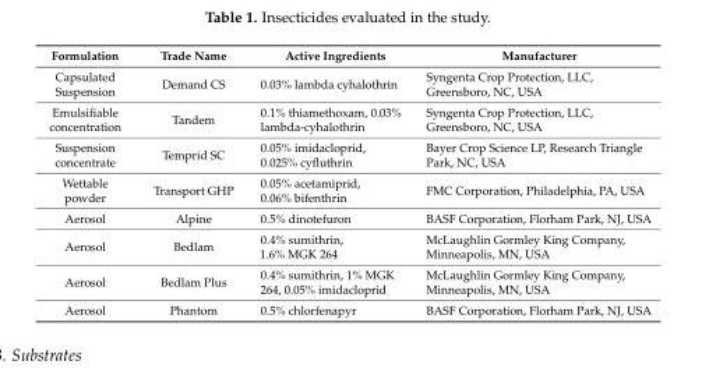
<table><thead><tr><td>Formulation</td><td>Trade Name</td><td>Active Ingredients</td><td>Manufacturer</td></tr></thead><tbody><tr><td>Capsulated Suspension</td><td>Demand CS</td><td>0.03% lambda cyhalothrin</td><td>Syngenta Crop Protection, LLC, Greensboro, NC, USA</td></tr><tr><td>Emulsifiable concentration</td><td>Tandem</td><td>0.1% thiamethoxam, 0.03% lambda-cyhalothrin</td><td>Syngenta Crop Protection, LLC, Greensboro, NC, USA</td></tr><tr><td>Suspension concentrate</td><td>Temprid SC</td><td>0.05% imidacloprid, 0.025% cyfluthrin</td><td>Bayer Crop Science LP, Research Triangle Park, NC, USA</td></tr><tr><td>Wettable powder</td><td>Transport GHP</td><td>0.05% acetamiprid, 0.06% bifenthrin</td><td>FMC Corporation, Philadelphia, PA, USA</td></tr><tr><td>Aerosol</td><td>Alpine</td><td>0.5% dinotefuron</td><td>BASF Corporation, Florham Park, NJ, USA</td></tr><tr><td>Aerosol</td><td>Bedlam</td><td>0.4% sumithrin, 1.6% MGK 264</td><td>McLaughlin Gormley King Company, Minneapolis, MN, USA</td></tr><tr><td>Aerosol</td><td>Bedlam Plus</td><td>0.4% sumithrin, 1% MGK 264, 0.05% imidacloprid</td><td>McLaughlin Gormley King Company, Minneapolis, MN, USA</td></tr><tr><td>Aerosol</td><td>Phantom</td><td>0.5% chlorfenapyr</td><td>BASF Corporation, Florham Park, NJ, USA</td></tr></tbody></table>